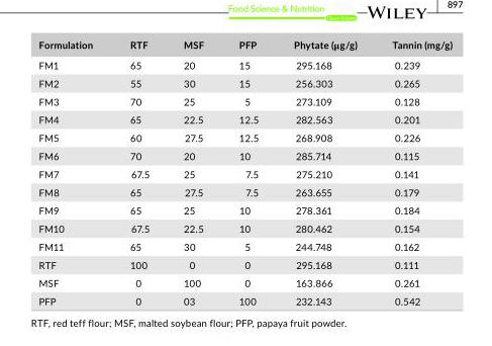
<table><thead><tr><td>Formulation</td><td>RTF</td><td>MSF</td><td>PFP</td><td>Phytate (μg/g)</td><td>Tannin (mg/g)</td></tr></thead><tbody><tr><td>FM1</td><td>65</td><td>20</td><td>15</td><td>295.168</td><td>0.239</td></tr><tr><td>FM2</td><td>55</td><td>30</td><td>15</td><td>256.303</td><td>0.265</td></tr><tr><td>FM3</td><td>70</td><td>25</td><td>5</td><td>273.109</td><td>0.128</td></tr><tr><td>FM4</td><td>65</td><td>22.5</td><td>12.5</td><td>282.563</td><td>0.201</td></tr><tr><td>FM5</td><td>60</td><td>27.5</td><td>12.5</td><td>268.908</td><td>0.226</td></tr><tr><td>FM6</td><td>70</td><td>20</td><td>10</td><td>285.714</td><td>0.115</td></tr><tr><td>FM7</td><td>67.5</td><td>25</td><td>7.5</td><td>275.210</td><td>0.141</td></tr><tr><td>FM8</td><td>65</td><td>27.5</td><td>7.5</td><td>263.655</td><td>0.179</td></tr><tr><td>FM9</td><td>65</td><td>25</td><td>10</td><td>278.361</td><td>0.184</td></tr><tr><td>FM10</td><td>67.5</td><td>22.5</td><td>10</td><td>280.462</td><td>0.154</td></tr><tr><td>FM11</td><td>65</td><td>30</td><td>5</td><td>244.748</td><td>0.162</td></tr><tr><td>RTF</td><td>100</td><td>0</td><td>0</td><td>295.168</td><td>0.111</td></tr><tr><td>MSF</td><td>0</td><td>100</td><td>0</td><td>163.866</td><td>0.261</td></tr><tr><td>PFP</td><td>0</td><td>03</td><td>100</td><td>232.143</td><td>0.542</td></tr></tbody></table>